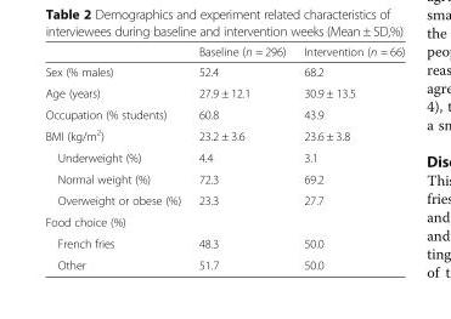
<table><thead><tr><td></td><td>Baseline (n = 296)</td><td>Intervention (n = 66)</td></tr></thead><tbody><tr><td>Sex (% males)</td><td>52.4</td><td>68.2</td></tr><tr><td>Age (years)</td><td>27.9 ± 12.1</td><td>30.9 ± 13.5</td></tr><tr><td>Occupation (% students)</td><td>60.8</td><td>43.9</td></tr><tr><td>BMI (kg/m<sup>2</sup>)</td><td>23.2 ± 3.6</td><td>23.6 ± 3.8</td></tr><tr><td>Underweight (%)</td><td>4.4</td><td>3.1</td></tr><tr><td>Normal weight (%)</td><td>72.3</td><td>69.2</td></tr><tr><td>Overweight or obese (%)</td><td>23.3</td><td>27.7</td></tr><tr><td colspan="3">Food choice (%)</td></tr><tr><td>French fries</td><td>48.3</td><td>50.0</td></tr><tr><td>Other</td><td>51.7</td><td>50.0</td></tr></tbody></table>